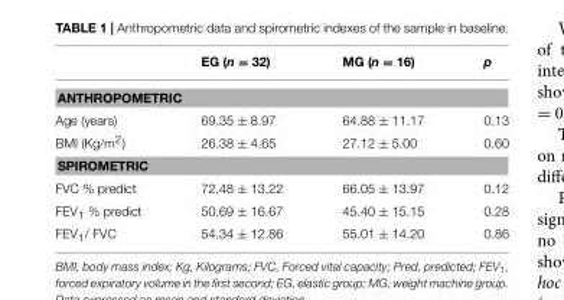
<table><thead><tr><td></td><td>EG (n = 32)</td><td>MG (n = 16)</td><td>p</td></tr></thead><tbody><tr><td colspan="4">ANTHROPOMETRIC</td></tr><tr><td>Age (years)</td><td>69.35 ± 8.97</td><td>64.88 ± 11.17</td><td>0.13</td></tr><tr><td>BMI (Kg/m<sup>2</sup>)</td><td>26.38 ± 4.65</td><td>27.12 ± 5.00</td><td>0.60</td></tr><tr><td colspan="4">SPIROMETRIC</td></tr><tr><td>FVC % predict</td><td>72.48 ± 13.22</td><td>66.05 ± 13.97</td><td>0.12</td></tr><tr><td>FEV<sub>1</sub> % predict</td><td>50.69 ± 16.67</td><td>45.40 ± 15.15</td><td>0.28</td></tr><tr><td>FEV<sub>1</sub>/ FVC</td><td>54.34 ± 12.86</td><td>55.01 ± 14.20</td><td>0.86</td></tr></tbody></table>